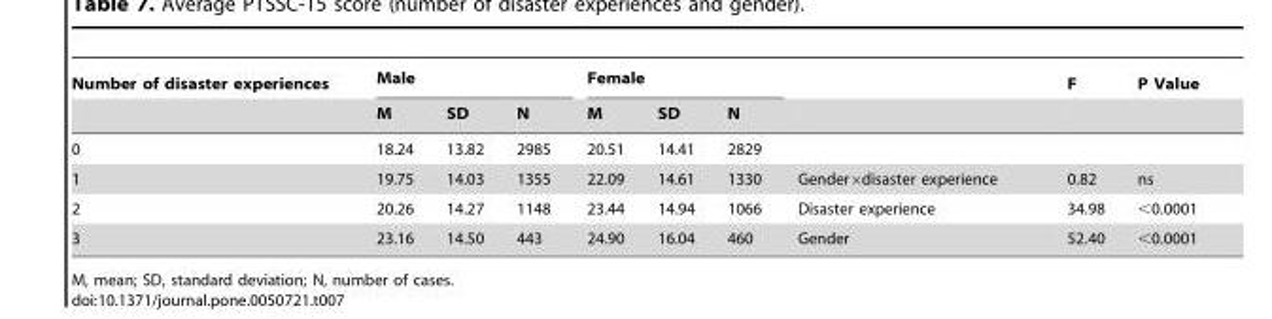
<table><thead><tr><td rowspan="2">Number of disaster experiences</td><td colspan="3">Male</td><td colspan="3">Female</td><td rowspan="2"></td><td rowspan="2">F</td><td rowspan="2">P Value</td></tr><tr><td>M</td><td>SD</td><td>N</td><td>M</td><td>SD</td><td>N</td></tr></thead><tbody><tr><td>0</td><td>18.24</td><td>13.82</td><td>2985</td><td>20.51</td><td>14.41</td><td>2829</td><td></td><td></td><td></td></tr><tr><td>1</td><td>19.75</td><td>14.03</td><td>1355</td><td>22.09</td><td>14.61</td><td>1330</td><td>Gender×disaster experience</td><td>0.82</td><td>ns</td></tr><tr><td>2</td><td>20.26</td><td>14.27</td><td>1148</td><td>23.44</td><td>14.94</td><td>1066</td><td>Disaster experience</td><td>34.98</td><td>&lt;0.0001</td></tr><tr><td>3</td><td>23.16</td><td>14.50</td><td>443</td><td>24.90</td><td>16.04</td><td>460</td><td>Gender</td><td>52.40</td><td>&lt;0.0001</td></tr></tbody></table>